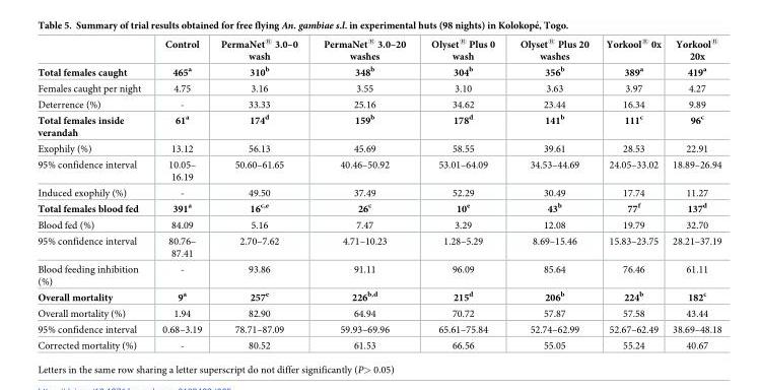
<table><thead><tr><td></td><td>Control</td><td>PermaNet<sup>®</sup> 3.0–0 wash</td><td>PermaNet<sup>®</sup> 3.0–20 washes</td><td>Olyset<sup>®</sup> Plus 0 wash</td><td>Olyset<sup>®</sup> Plus 20 washes</td><td>Yorkool<sup>®</sup> 0x</td><td>Yorkool<sup>®</sup> 20x</td></tr></thead><tbody><tr><td>Total females caught</td><td>465<sup>a</sup></td><td>310<sup>b</sup></td><td>348<sup>b</sup></td><td>304<sup>b</sup></td><td>356<sup>b</sup></td><td>389<sup>a</sup></td><td>419<sup>a</sup></td></tr><tr><td>Females caught per night</td><td>4.75</td><td>3.16</td><td>3.55</td><td>3.10</td><td>3.63</td><td>3.97</td><td>4.27</td></tr><tr><td>Deterrence (%)</td><td>-</td><td>33.33</td><td>25.16</td><td>34.62</td><td>23.44</td><td>16.34</td><td>9.89</td></tr><tr><td>Total females inside verandah</td><td>61<sup>a</sup></td><td>174<sup>d</sup></td><td>159<sup>b</sup></td><td>178<sup>d</sup></td><td>141<sup>b</sup></td><td>111<sup>c</sup></td><td>96<sup>c</sup></td></tr><tr><td>Exophily (%)</td><td>13.12</td><td>56.13</td><td>45.69</td><td>58.55</td><td>39.61</td><td>28.53</td><td>22.91</td></tr><tr><td>95% confidence interval</td><td>10.05– 16.19</td><td>50.60–61.65</td><td>40.46–50.92</td><td>53.01–64.09</td><td>34.53–44.69</td><td>24.05–33.02</td><td>18.89–26.94</td></tr><tr><td>Induced exophily (%)</td><td>-</td><td>49.50</td><td>37.49</td><td>52.29</td><td>30.49</td><td>17.74</td><td>11.27</td></tr><tr><td>Total females blood fed</td><td>391<sup>a</sup></td><td>16<sup>c,e</sup></td><td>26<sup>c</sup></td><td>10<sup>e</sup></td><td>43<sup>b</sup></td><td>77<sup>f</sup></td><td>137<sup>d</sup></td></tr><tr><td>Blood fed (%)</td><td>84.09</td><td>5.16</td><td>7.47</td><td>3.29</td><td>12.08</td><td>19.79</td><td>32.70</td></tr><tr><td>95% confidence interval</td><td>80.76– 87.41</td><td>2.70–7.62</td><td>4.71–10.23</td><td>1.28–5.29</td><td>8.69–15.46</td><td>15.83–23.75</td><td>28.21–37.19</td></tr><tr><td>Blood feeding inhibition (%)</td><td>-</td><td>93.86</td><td>91.11</td><td>96.09</td><td>85.64</td><td>76.46</td><td>61.11</td></tr><tr><td>Overall mortality</td><td>9<sup>a</sup></td><td>257<sup>e</sup></td><td>226<sup>b,d</sup></td><td>215<sup>d</sup></td><td>206<sup>b</sup></td><td>224<sup>b</sup></td><td>182<sup>c</sup></td></tr><tr><td>Overall mortality (%)</td><td>1.94</td><td>82.90</td><td>64.94</td><td>70.72</td><td>57.87</td><td>57.58</td><td>43.44</td></tr><tr><td>95% confidence interval</td><td>0.68–3.19</td><td>78.71–87.09</td><td>59.93–69.96</td><td>65.61–75.84</td><td>52.74–62.99</td><td>52.67–62.49</td><td>38.69–48.18</td></tr><tr><td>Corrected mortality (%)</td><td>-</td><td>80.52</td><td>61.53</td><td>66.56</td><td>55.05</td><td>55.24</td><td>40.67</td></tr></tbody></table>